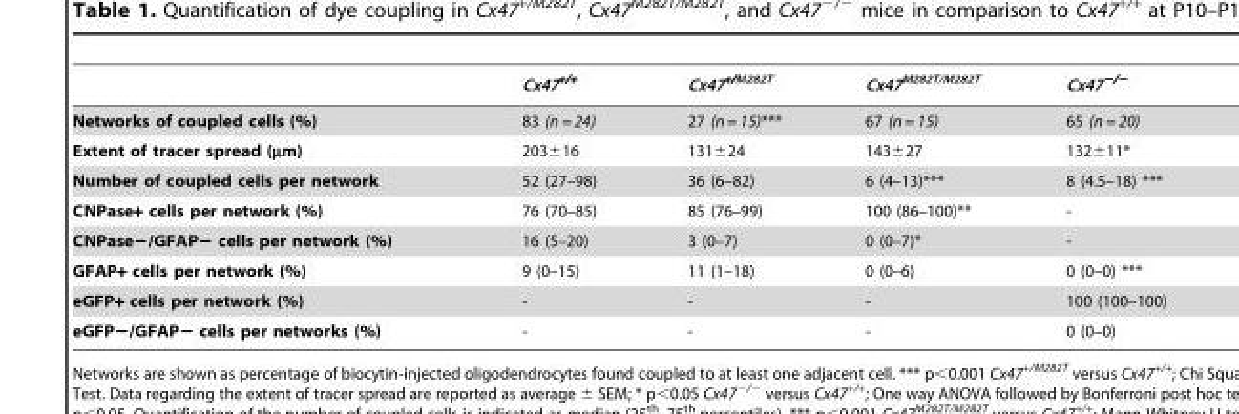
<table><thead><tr><td></td><td>Cx47<sup>+/+</sup></td><td>Cx47<sup>+/M282T</sup></td><td>Cx47<sup>M282T/M282T</sup></td><td>Cx47<sup>−/−</sup></td></tr></thead><tbody><tr><td>Networks of coupled cells (%)</td><td>83 (n = 24)</td><td>27 (n = 15)***</td><td>67 (n = 15)</td><td>65 (n = 20)</td></tr><tr><td>Extent of tracer spread (µm)</td><td>203±16</td><td>131±24</td><td>143±27</td><td>132±11*</td></tr><tr><td>Number of coupled cells per network</td><td>52 (27–98)</td><td>36 (6–82)</td><td>6 (4–13)***</td><td>8 (4.5–18) ***</td></tr><tr><td>CNPase+ cells per network (%)</td><td>76 (70–85)</td><td>85 (76–99)</td><td>100 (86–100)**</td><td>-</td></tr><tr><td>CNPase−/GFAP− cells per network (%)</td><td>16 (5–20)</td><td>3 (0–7)</td><td>0 (0–7)*</td><td>-</td></tr><tr><td>GFAP+ cells per network (%)</td><td>9 (0–15)</td><td>11 (1–18)</td><td>0 (0–6)</td><td>0 (0–0) ***</td></tr><tr><td>eGFP+ cells per network (%)</td><td>-</td><td>-</td><td>-</td><td>100 (100–100)</td></tr><tr><td>eGFP−/GFAP− cells per networks (%)</td><td>-</td><td>-</td><td>-</td><td>0 (0–0)</td></tr></tbody></table>